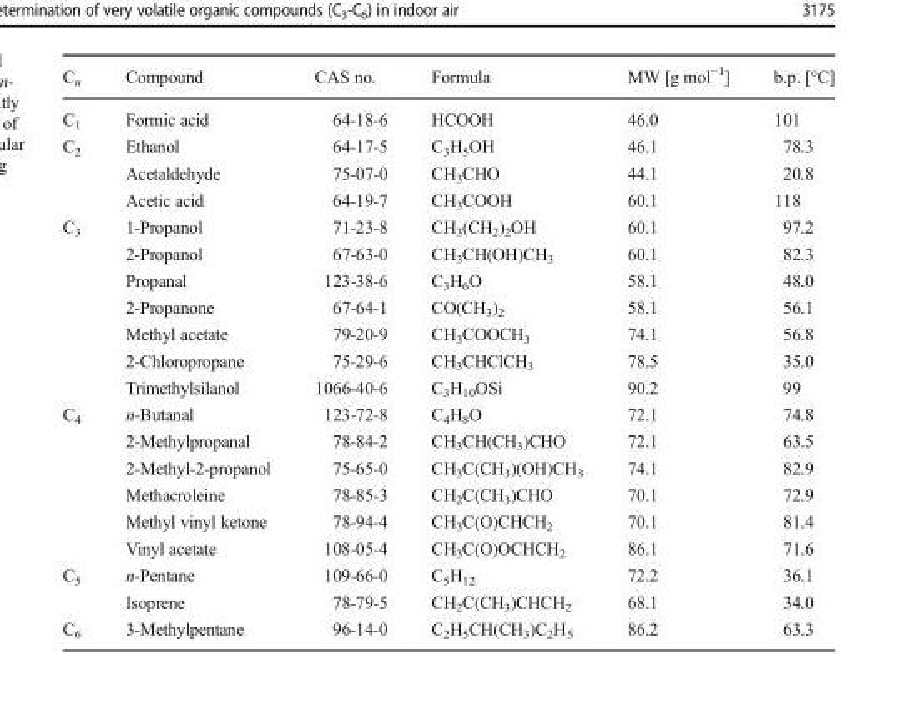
<table><thead><tr><td>C<sub>n</sub></td><td>Compound</td><td>CAS no.</td><td>Formula</td><td>MW [g mol<sup>−1</sup>]</td><td>b.p. [°C]</td></tr></thead><tbody><tr><td>C<sub>1</sub></td><td>Formic acid</td><td>64-18-6</td><td>HCOOH</td><td>46.0</td><td>101</td></tr><tr><td rowspan="3">C<sub>2</sub></td><td>Ethanol</td><td>64-17-5</td><td>C<sub>3</sub>H<sub>5</sub>OH</td><td>46.1</td><td>78.3</td></tr><tr><td>Acetaldehyde</td><td>75-07-0</td><td>CH<sub>3</sub>CHO</td><td>44.1</td><td>20.8</td></tr><tr><td>Acetic acid</td><td>64-19-7</td><td>CH<sub>3</sub>COOH</td><td>60.1</td><td>118</td></tr><tr><td rowspan="7">C<sub>3</sub></td><td>1-Propanol</td><td>71-23-8</td><td>CH<sub>3</sub>(CH<sub>2</sub>)<sub>2</sub>OH</td><td>60.1</td><td>97.2</td></tr><tr><td>2-Propanol</td><td>67-63-0</td><td>CH<sub>3</sub>CH(OH)CH<sub>3</sub></td><td>60.1</td><td>82.3</td></tr><tr><td>Propanal</td><td>123-38-6</td><td>C<sub>3</sub>H<sub>6</sub>O</td><td>58.1</td><td>48.0</td></tr><tr><td>2-Propanone</td><td>67-64-1</td><td>CO(CH<sub>3</sub>)<sub>2</sub></td><td>58.1</td><td>56.1</td></tr><tr><td>Methyl acetate</td><td>79-20-9</td><td>CH<sub>3</sub>COOCH<sub>3</sub></td><td>74.1</td><td>56.8</td></tr><tr><td>2-Chloropropane</td><td>75-29-6</td><td>CH<sub>3</sub>CHClCH<sub>3</sub></td><td>78.5</td><td>35.0</td></tr><tr><td>Trimethylsilanol</td><td>1066-40-6</td><td>C<sub>3</sub>H<sub>10</sub>OSi</td><td>90.2</td><td>99</td></tr><tr><td rowspan="6">C<sub>4</sub></td><td>n-Butanal</td><td>123-72-8</td><td>C<sub>4</sub>H<sub>8</sub>O</td><td>72.1</td><td>74.8</td></tr><tr><td>2-Methylpropanal</td><td>78-84-2</td><td>CH<sub>3</sub>CH(CH<sub>3</sub>)CHO</td><td>72.1</td><td>63.5</td></tr><tr><td>2-Methyl-2-propanol</td><td>75-65-0</td><td>CH<sub>3</sub>C(CH<sub>3</sub>)(OH)CH<sub>3</sub></td><td>74.1</td><td>82.9</td></tr><tr><td>Methacroleine</td><td>78-85-3</td><td>CH<sub>2</sub>C(CH<sub>3</sub>)CHO</td><td>70.1</td><td>72.9</td></tr><tr><td>Methyl vinyl ketone</td><td>78-94-4</td><td>CH<sub>3</sub>C(O)CHCH<sub>2</sub></td><td>70.1</td><td>81.4</td></tr><tr><td>Vinyl acetate</td><td>108-05-4</td><td>CH<sub>3</sub>C(O)OCHCH<sub>2</sub></td><td>86.1</td><td>71.6</td></tr><tr><td rowspan="2">C<sub>5</sub></td><td>n-Pentane</td><td>109-66-0</td><td>C<sub>5</sub>H<sub>12</sub></td><td>72.2</td><td>36.1</td></tr><tr><td>Isoprene</td><td>78-79-5</td><td>CH<sub>2</sub>C(CH<sub>3</sub>)CHCH<sub>2</sub></td><td>68.1</td><td>34.0</td></tr><tr><td>C<sub>6</sub></td><td>3-Methylpentane</td><td>96-14-0</td><td>C<sub>2</sub>H<sub>5</sub>CH(CH<sub>3</sub>)C<sub>2</sub>H<sub>5</sub></td><td>86.2</td><td>63.3</td></tr></tbody></table>